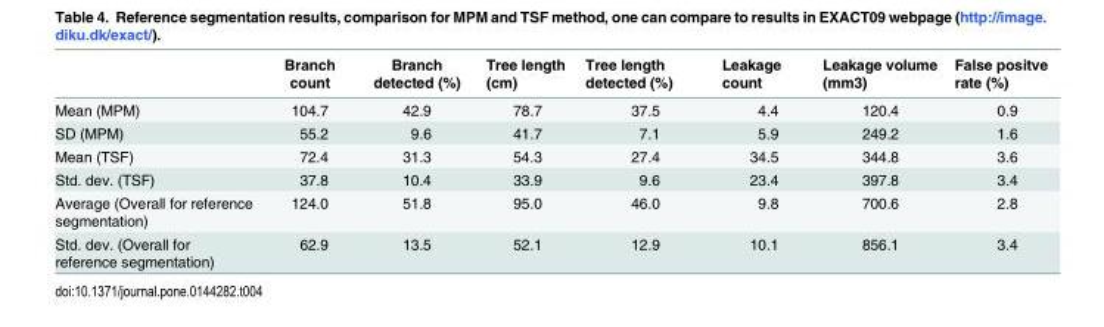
<table><thead><tr><td></td><td>Branch count</td><td>Branch detected (%)</td><td>Tree length (cm)</td><td>Tree length detected (%)</td><td>Leakage count</td><td>Leakage volume (mm3)</td><td>False positve rate (%)</td></tr></thead><tbody><tr><td>Mean (MPM)</td><td>104.7</td><td>42.9</td><td>78.7</td><td>37.5</td><td>4.4</td><td>120.4</td><td>0.9</td></tr><tr><td>SD (MPM)</td><td>55.2</td><td>9.6</td><td>41.7</td><td>7.1</td><td>5.9</td><td>249.2</td><td>1.6</td></tr><tr><td>Mean (TSF)</td><td>72.4</td><td>31.3</td><td>54.3</td><td>27.4</td><td>34.5</td><td>344.8</td><td>3.6</td></tr><tr><td>Std. dev. (TSF)</td><td>37.8</td><td>10.4</td><td>33.9</td><td>9.6</td><td>23.4</td><td>397.8</td><td>3.4</td></tr><tr><td>Average (Overall for reference segmentation)</td><td>124.0</td><td>51.8</td><td>95.0</td><td>46.0</td><td>9.8</td><td>700.6</td><td>2.8</td></tr><tr><td>Std. dev. (Overall for reference segmentation)</td><td>62.9</td><td>13.5</td><td>52.1</td><td>12.9</td><td>10.1</td><td>856.1</td><td>3.4</td></tr></tbody></table>